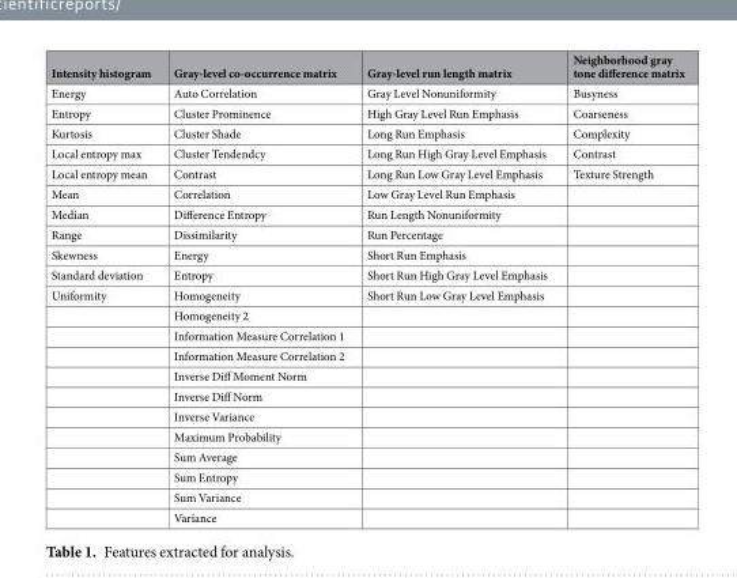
<table><thead><tr><td>Intensity histogram</td><td>Gray-level co-occurrence matrix</td><td>Gray-level run length matrix</td><td>Neighborhood gray tone difference matrix</td></tr></thead><tbody><tr><td>Energy</td><td>Auto Correlation</td><td>Gray Level Nonuniformity</td><td>Busyness</td></tr><tr><td>Entropy</td><td>Cluster Prominence</td><td>High Gray Level Run Emphasis</td><td>Coarseness</td></tr><tr><td>Kurtosis</td><td>Cluster Shade</td><td>Long Run Emphasis</td><td>Complexity</td></tr><tr><td>Local entropy max</td><td>Cluster Tendendcy</td><td>Long Run High Gray Level Emphasis</td><td>Contrast</td></tr><tr><td>Local entropy mean</td><td>Contrast</td><td>Long Run Low Gray Level Emphasis</td><td>Texture Strength</td></tr><tr><td>Mean</td><td>Correlation</td><td>Low Gray Level Run Emphasis</td><td></td></tr><tr><td>Median</td><td>Difference Entropy</td><td>Run Length Nonuniformity</td><td></td></tr><tr><td>Range</td><td>Dissimilarity</td><td>Run Percentage</td><td></td></tr><tr><td>Skewness</td><td>Energy</td><td>Short Run Emphasis</td><td></td></tr><tr><td>Standard deviation</td><td>Entropy</td><td>Short Run High Gray Level Emphasis</td><td></td></tr><tr><td rowspan="12">Uniformity</td><td>Homogeneity</td><td>Short Run Low Gray Level Emphasis</td><td></td></tr><tr><td>Homogeneity 2</td><td></td><td></td></tr><tr><td>Information Measure Correlation 1</td><td></td><td></td></tr><tr><td>Information Measure Correlation 2</td><td></td><td></td></tr><tr><td>Inverse Diff Moment Norm</td><td></td><td></td></tr><tr><td>Inverse Diff Norm</td><td></td><td></td></tr><tr><td>Inverse Variance</td><td></td><td></td></tr><tr><td>Maximum Probability</td><td></td><td></td></tr><tr><td>Sum Average</td><td></td><td></td></tr><tr><td>Sum Entropy</td><td></td><td></td></tr><tr><td>Sum Variance</td><td></td><td></td></tr><tr><td>Variance</td><td></td><td></td></tr></tbody></table>